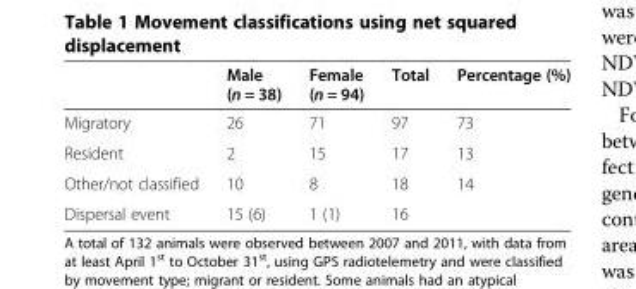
<table><thead><tr><td></td><td>Male (n = 38)</td><td>Female (n = 94)</td><td>Total</td><td>Percentage (%)</td></tr></thead><tbody><tr><td>Migratory</td><td>26</td><td>71</td><td>97</td><td>73</td></tr><tr><td>Resident</td><td>2</td><td>15</td><td>17</td><td>13</td></tr><tr><td>Other/not classified</td><td>10</td><td>8</td><td>18</td><td>14</td></tr><tr><td>Dispersal event</td><td>15 (6)</td><td>1 (1)</td><td>16</td><td></td></tr></tbody></table>